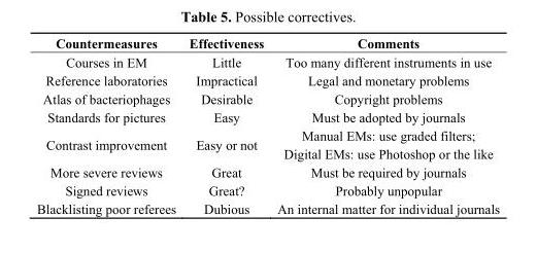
<table><thead><tr><td>Countermeasures</td><td>Effectiveness</td><td>Comments</td></tr></thead><tbody><tr><td>Courses in EM</td><td>Little</td><td>Too many different instruments in use</td></tr><tr><td>Reference laboratories</td><td>Impractical</td><td>Legal and monetary problems</td></tr><tr><td>Atlas of bacteriophages</td><td>Desirable</td><td>Copyright problems</td></tr><tr><td>Standards for pictures</td><td>Easy</td><td>Must be adopted by journals</td></tr><tr><td>Contrast improvement</td><td>Easy or not</td><td>Manual EMs: use graded filters; Digital EMs: use Photoshop or the like</td></tr><tr><td>More severe reviews</td><td>Great</td><td>Must be required by journals</td></tr><tr><td>Signed reviews</td><td>Great?</td><td>Probably unpopular</td></tr><tr><td>Blacklisting poor referees</td><td>Dubious</td><td>An internal matter for individual journals</td></tr></tbody></table>